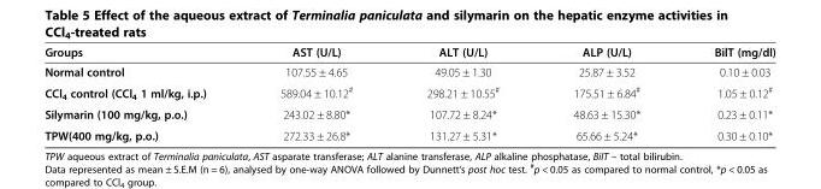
<table><thead><tr><td>Groups</td><td>AST (U/L)</td><td>ALT (U/L)</td><td>ALP (U/L)</td><td>BilT (mg/dl)</td></tr></thead><tbody><tr><td>Normal control</td><td>107.55 ± 4.65</td><td>49.05 ± 1.30</td><td>25.87 ± 3.52</td><td>0.10 ± 0.03</td></tr><tr><td>CCl<sub>4</sub> control (CCl<sub>4</sub> 1 ml/kg, i.p.)</td><td>589.04 ± 10.12<sup>#</sup></td><td>298.21 ± 10.55<sup>#</sup></td><td>175.51 ± 6.84<sup>#</sup></td><td>1.05 ± 0.12<sup>#</sup></td></tr><tr><td>Silymarin (100 mg/kg, p.o.)</td><td>243.02 ± 8.80*</td><td>107.72 ± 8.24*</td><td>48.63 ± 15.30*</td><td>0.23 ± 0.11*</td></tr><tr><td>TPW(400 mg/kg, p.o.)</td><td>272.33 ± 26.8*</td><td>131.27 ± 5.31*</td><td>65.66 ± 5.24*</td><td>0.30 ± 0.10*</td></tr></tbody></table>